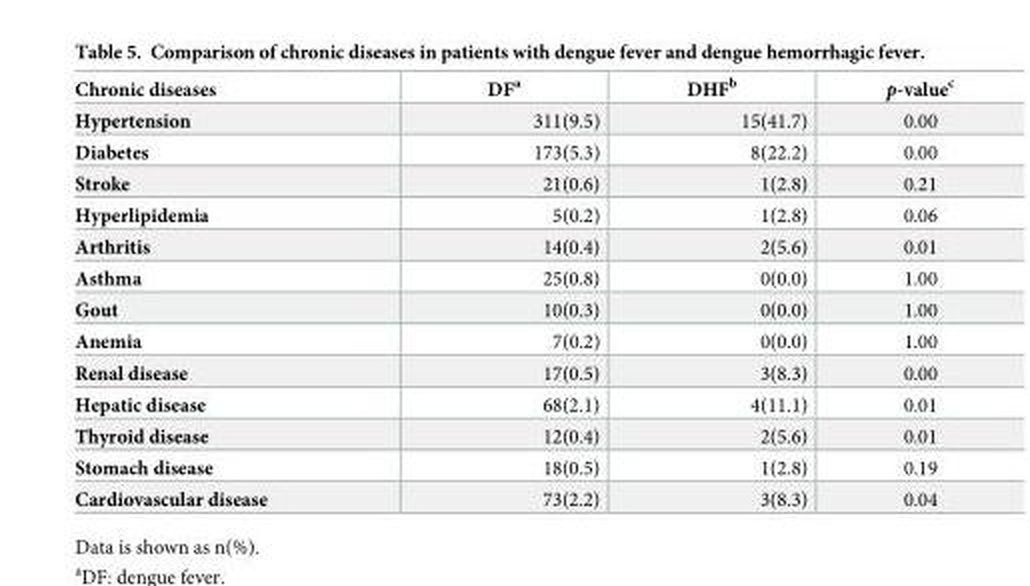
<table><thead><tr><td>Chronic diseases</td><td>DF<sup>a</sup></td><td>DHF<sup>b</sup></td><td>p-value<sup>c</sup></td></tr></thead><tbody><tr><td>Hypertension</td><td>311(9.5)</td><td>15(41.7)</td><td>0.00</td></tr><tr><td>Diabetes</td><td>173(5.3)</td><td>8(22.2)</td><td>0.00</td></tr><tr><td>Stroke</td><td>21(0.6)</td><td>1(2.8)</td><td>0.21</td></tr><tr><td>Hyperlipidemia</td><td>5(0.2)</td><td>1(2.8)</td><td>0.06</td></tr><tr><td>Arthritis</td><td>14(0.4)</td><td>2(5.6)</td><td>0.01</td></tr><tr><td>Asthma</td><td>25(0.8)</td><td>0(0.0)</td><td>1.00</td></tr><tr><td>Gout</td><td>10(0.3)</td><td>0(0.0)</td><td>1.00</td></tr><tr><td>Anemia</td><td>7(0.2)</td><td>0(0.0)</td><td>1.00</td></tr><tr><td>Renal disease</td><td>17(0.5)</td><td>3(8.3)</td><td>0.00</td></tr><tr><td>Hepatic disease</td><td>68(2.1)</td><td>4(11.1)</td><td>0.01</td></tr><tr><td>Thyroid disease</td><td>12(0.4)</td><td>2(5.6)</td><td>0.01</td></tr><tr><td>Stomach disease</td><td>18(0.5)</td><td>1(2.8)</td><td>0.19</td></tr><tr><td>Cardiovascular disease</td><td>73(2.2)</td><td>3(8.3)</td><td>0.04</td></tr></tbody></table>